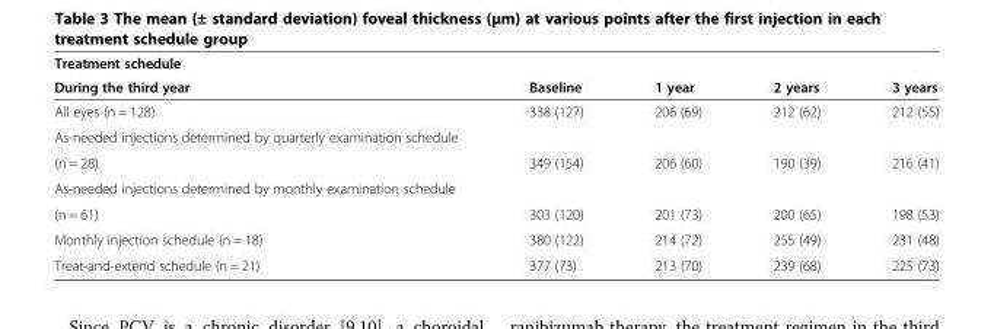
<table><thead><tr><td rowspan="2">Treatment schedule During the third year</td><td rowspan="2">Baseline</td><td rowspan="2">1 year</td><td rowspan="2">2 years</td><td rowspan="2">3 years</td></tr><tr></tr></thead><tbody><tr><td>All eyes (n = 128)</td><td>338 (127)</td><td>206 (69)</td><td>212 (62)</td><td>212 (55)</td></tr><tr><td colspan="5">As-needed injections determined by quarterly examination schedule</td></tr><tr><td>(n = 28)</td><td>349 (154)</td><td>206 (60)</td><td>190 (39)</td><td>216 (41)</td></tr><tr><td colspan="5">As-needed injections determined by monthly examination schedule</td></tr><tr><td>(n = 61)</td><td>303 (120)</td><td>201 (73)</td><td>200 (65)</td><td>198 (53)</td></tr><tr><td>Monthly injection schedule (n = 18)</td><td>380 (122)</td><td>214 (72)</td><td>255 (49)</td><td>231 (48)</td></tr><tr><td>Treat-and-extend schedule (n = 21)</td><td>377 (73)</td><td>213 (70)</td><td>239 (68)</td><td>225 (73)</td></tr></tbody></table>